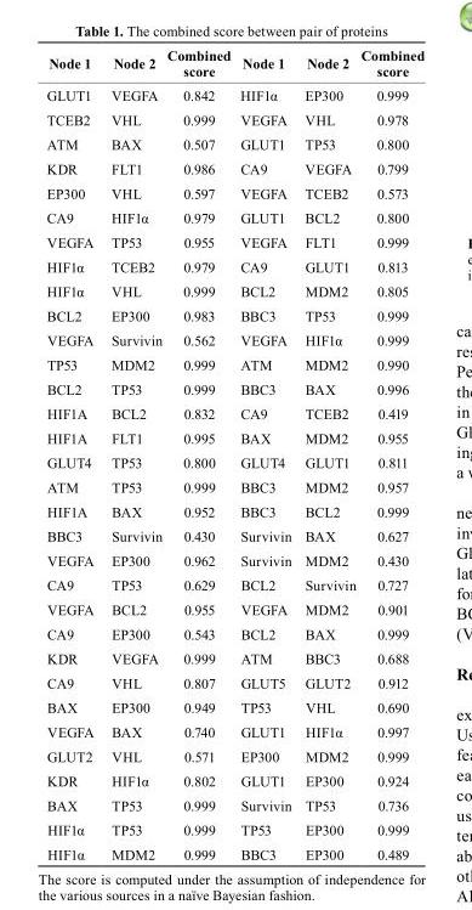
<table><thead><tr><td>Node 1</td><td>Node 2</td><td>combined score</td><td>Node 1</td><td>Node 2</td><td>combined score</td></tr></thead><tbody><tr><td>GLUT1</td><td>VEGFA</td><td>0.842</td><td>HIF1α</td><td>EP300</td><td>0.999</td></tr><tr><td>TCEB2</td><td>VHL</td><td>0.999</td><td>VEGFA</td><td>VHL</td><td>0.978</td></tr><tr><td>ATM</td><td>BAX</td><td>0.507</td><td>GLUT1</td><td>TP53</td><td>0.800</td></tr><tr><td>KDR</td><td>FLT1</td><td>0.986</td><td>CA9</td><td>VEGFA</td><td>0.799</td></tr><tr><td>EP300</td><td>VHL</td><td>0.597</td><td>VEGFA</td><td>TCEB2</td><td>0.573</td></tr><tr><td>CA9</td><td>HIF1α</td><td>0.979</td><td>GLUT1</td><td>BCL2</td><td>0.800</td></tr><tr><td>VEGFA</td><td>TP53</td><td>0.955</td><td>VEGFA</td><td>FLT1</td><td>0.999</td></tr><tr><td>HIF1α</td><td>TCEB2</td><td>0.979</td><td>CA9</td><td>GLUT1</td><td>0.813</td></tr><tr><td>HIF1α</td><td>VHL</td><td>0.999</td><td>BCL2</td><td>MDM2</td><td>0.805</td></tr><tr><td>BCL2</td><td>EP300</td><td>0.983</td><td>BBC3</td><td>TP53</td><td>0.999</td></tr><tr><td>VEGFA</td><td>Survivin</td><td>0.562</td><td>VEGFA</td><td>HIF1α</td><td>0.999</td></tr><tr><td>TP53</td><td>MDM2</td><td>0.999</td><td>ATM</td><td>MDM2</td><td>0.990</td></tr><tr><td>BCL2</td><td>TP53</td><td>0.999</td><td>BBC3</td><td>BAX</td><td>0.996</td></tr><tr><td>HIF1A</td><td>BCL2</td><td>0.832</td><td>CA9</td><td>TCEB2</td><td>0.419</td></tr><tr><td>HIF1A</td><td>FLT1</td><td>0.995</td><td>BAX</td><td>MDM2</td><td>0.955</td></tr><tr><td>GLUT4</td><td>TP53</td><td>0.800</td><td>GLUT4</td><td>GLUT1</td><td>0.811</td></tr><tr><td>ATM</td><td>TP53</td><td>0.999</td><td>BBC3</td><td>MDM2</td><td>0.957</td></tr><tr><td>HIF1A</td><td>BAX</td><td>0.952</td><td>BBC3</td><td>BCL2</td><td>0.999</td></tr><tr><td>BBC3</td><td>Survivin</td><td>0.430</td><td>Survivin</td><td>BAX</td><td>0.627</td></tr><tr><td>VEGFA</td><td>EP300</td><td>0.962</td><td>Survivin</td><td>MDM2</td><td>0.430</td></tr><tr><td>CA9</td><td>TP53</td><td>0.629</td><td>BCL2</td><td>Survivin</td><td>0.727</td></tr><tr><td>VEGFA</td><td>BCL2</td><td>0.955</td><td>VEGFA</td><td>MDM2</td><td>0.901</td></tr><tr><td>CA9</td><td>EP300</td><td>0.543</td><td>BCL2</td><td>BAX</td><td>0.999</td></tr><tr><td>KDR</td><td>VEGFA</td><td>0.999</td><td>ATM</td><td>BBC3</td><td>0.688</td></tr><tr><td>CA9</td><td>VHL</td><td>0.807</td><td>GLUT5</td><td>GLUT2</td><td>0.912</td></tr><tr><td>BAX</td><td>EP300</td><td>0.949</td><td>TP53</td><td>VHL</td><td>0.690</td></tr><tr><td>VEGFA</td><td>BAX</td><td>0.740</td><td>GLUT1</td><td>HIF1α</td><td>0.997</td></tr><tr><td>GLUT2</td><td>VHL</td><td>0.571</td><td>EP300</td><td>MDM2</td><td>0.999</td></tr><tr><td>KDR</td><td>HIF1α</td><td>0.802</td><td>GLUT1</td><td>EP300</td><td>0.924</td></tr><tr><td>BAX</td><td>TP53</td><td>0.999</td><td>Survivin</td><td>TP53</td><td>0.736</td></tr><tr><td>HIF1α</td><td>TP53</td><td>0.999</td><td>TP53</td><td>EP300</td><td>0.999</td></tr><tr><td>HIF1α</td><td>MDM2</td><td>0.999</td><td>BBC3</td><td>EP300</td><td>0.489</td></tr></tbody></table>